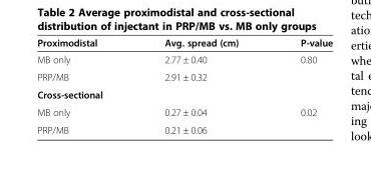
<table><thead><tr><td>Proximodistal</td><td>Avg. spread (cm)</td><td>P-value</td></tr></thead><tbody><tr><td>MB only</td><td>2.77 ± 0.40</td><td rowspan="2">0.80</td></tr><tr><td>PRP/MB</td><td>2.91 ± 0.32</td></tr><tr><td colspan="3">Cross-sectional</td></tr><tr><td>MB only</td><td>0.27 ± 0.04</td><td rowspan="2">0.02</td></tr><tr><td>PRP/MB</td><td>0.21 ± 0.06</td></tr></tbody></table>